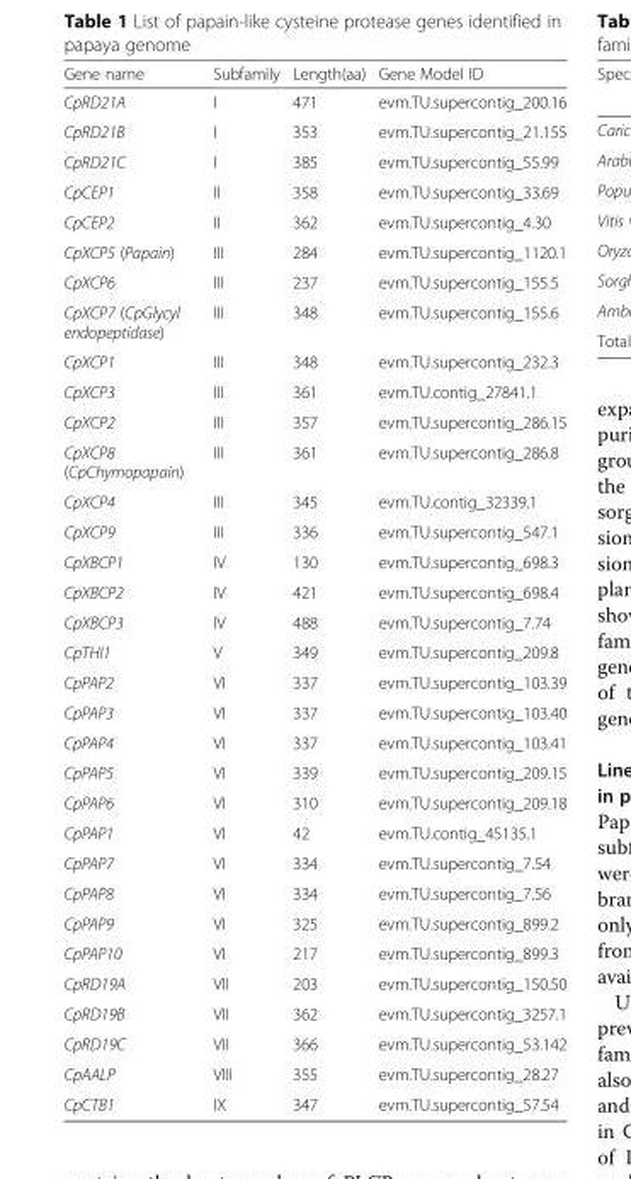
<table><thead><tr><td>Gene name</td><td>Subfamily</td><td>Length(aa)</td><td>Gene Model ID</td></tr></thead><tbody><tr><td>CpRD21A</td><td>I</td><td>471</td><td>evm.TU.supercontig_200.16</td></tr><tr><td>CpRD21B</td><td>I</td><td>353</td><td>evm.TU.supercontig_21.155</td></tr><tr><td>CpRD21C</td><td>I</td><td>385</td><td>evm.TU.supercontig_55.99</td></tr><tr><td>CpCEP1</td><td>II</td><td>358</td><td>evm.TU.supercontig_33.69</td></tr><tr><td>CpCEP2</td><td>II</td><td>362</td><td>evm.TU.supercontig_4.30</td></tr><tr><td>CpXCP5 (Papain)</td><td>III</td><td>284</td><td>evm.TU.supercontig_1120.1</td></tr><tr><td>CpXCP6</td><td>III</td><td>237</td><td>evm.TU.supercontig_155.5</td></tr><tr><td>CpXCP7 (CpGlycyl endopeptidase)</td><td>III</td><td>348</td><td>evm.TU.supercontig_155.6</td></tr><tr><td>CpXCP1</td><td>III</td><td>348</td><td>evm.TU.supercontig_232.3</td></tr><tr><td>CpXCP3</td><td>III</td><td>361</td><td>evm.TU.contig_27841.1</td></tr><tr><td>CpXCP2</td><td>III</td><td>357</td><td>evm.TU.supercontig_286.15</td></tr><tr><td>CpXCP8 (CpChymopapain)</td><td>III</td><td>361</td><td>evm.TU.supercontig_286.8</td></tr><tr><td>CpXCP4</td><td>III</td><td>345</td><td>evm.TU.contig_32339.1</td></tr><tr><td>CpXCP9</td><td>III</td><td>336</td><td>evm.TU.supercontig_547.1</td></tr><tr><td>CpXBCP1</td><td>IV</td><td>130</td><td>evm.TU.supercontig_698.3</td></tr><tr><td>CpXBCP2</td><td>IV</td><td>421</td><td>evm.TU.supercontig_698.4</td></tr><tr><td>CpXBCP3</td><td>IV</td><td>488</td><td>evm.TU.supercontig_7.74</td></tr><tr><td>CpTHI1</td><td>V</td><td>349</td><td>evm.TU.supercontig_209.8</td></tr><tr><td>CpPAP2</td><td>VI</td><td>337</td><td>evm.TU.supercontig_103.39</td></tr><tr><td>CpPAP3</td><td>VI</td><td>337</td><td>evm.TU.supercontig_103.40</td></tr><tr><td>CpPAP4</td><td>VI</td><td>337</td><td>evm.TU.supercontig_103.41</td></tr><tr><td>CpPAP5</td><td>VI</td><td>339</td><td>evm.TU.supercontig_209.15</td></tr><tr><td>CpPAP6</td><td>VI</td><td>310</td><td>evm.TU.supercontig_209.18</td></tr><tr><td>CpPAP1</td><td>VI</td><td>42</td><td>evm.TU.contig_45135.1</td></tr><tr><td>CpPAP7</td><td>VI</td><td>334</td><td>evm.TU.supercontig_7.54</td></tr><tr><td>CpPAP8</td><td>VI</td><td>334</td><td>evm.TU.supercontig_7.56</td></tr><tr><td>CpPAP9</td><td>VI</td><td>325</td><td>evm.TU.supercontig_899.2</td></tr><tr><td>CpPAP10</td><td>VI</td><td>217</td><td>evm.TU.supercontig_899.3</td></tr><tr><td>CpRD19A</td><td>VII</td><td>203</td><td>evm.TU.supercontig_150.50</td></tr><tr><td>CpRD19B</td><td>VII</td><td>362</td><td>evm.TU.supercontig_3257.1</td></tr><tr><td>CpRD19C</td><td>VII</td><td>366</td><td>evm.TU.supercontig_53.142</td></tr><tr><td>CpAALP</td><td>VIII</td><td>355</td><td>evm.TU.supercontig_28.27</td></tr><tr><td>CpCTB1</td><td>IX</td><td>347</td><td>evm.TU.supercontig_57.54</td></tr></tbody></table>